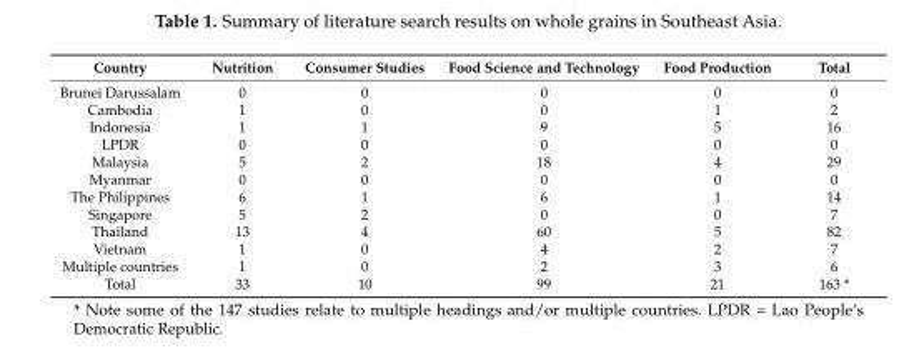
<table><thead><tr><td>Country</td><td>Nutrition</td><td>Consumer Studies</td><td>Food Science and Technology</td><td>Food Production</td><td>Total</td></tr></thead><tbody><tr><td>Brunei Darussalam</td><td>0</td><td>0</td><td>0</td><td>0</td><td>0</td></tr><tr><td>Cambodia</td><td>1</td><td>0</td><td>0</td><td>1</td><td>2</td></tr><tr><td>Indonesia</td><td>1</td><td>1</td><td>9</td><td>5</td><td>16</td></tr><tr><td>LPDR</td><td>0</td><td>0</td><td>0</td><td>0</td><td>0</td></tr><tr><td>Malaysia</td><td>5</td><td>2</td><td>18</td><td>4</td><td>29</td></tr><tr><td>Myanmar</td><td>0</td><td>0</td><td>0</td><td>0</td><td>0</td></tr><tr><td>The Philippines</td><td>6</td><td>1</td><td>6</td><td>1</td><td>14</td></tr><tr><td>Singapore</td><td>5</td><td>2</td><td>0</td><td>0</td><td>7</td></tr><tr><td>Thailand</td><td>13</td><td>4</td><td>60</td><td>5</td><td>82</td></tr><tr><td>Vietnam</td><td>1</td><td>0</td><td>4</td><td>2</td><td>7</td></tr><tr><td>Multiple countries</td><td>1</td><td>0</td><td>2</td><td>3</td><td>6</td></tr><tr><td>Total</td><td>33</td><td>10</td><td>99</td><td>21</td><td>163 *</td></tr></tbody></table>